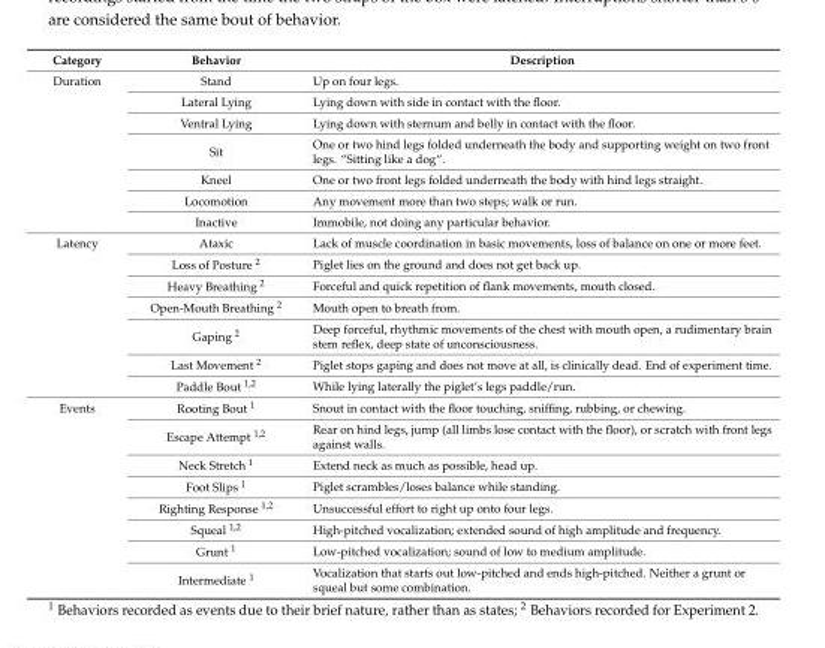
<table><thead><tr><td>Category</td><td>Behavior</td><td>Description</td></tr></thead><tbody><tr><td rowspan="7">Duration</td><td>Stand</td><td>Up on four legs.</td></tr><tr><td>Lateral Lying</td><td>Lying down with side in contact with the floor.</td></tr><tr><td>Ventral Lying</td><td>Lying down with sternum and belly in contact with the floor.</td></tr><tr><td>Sit</td><td>One or two hind legs folded underneath the body and supporting weight on two front legs. “Sitting like a dog“.</td></tr><tr><td>Kneel</td><td>One or two front legs folded underneath the body with hind legs straight.</td></tr><tr><td>Locomotion</td><td>Any movement more than two steps; walk or run.</td></tr><tr><td>Inactive</td><td>Immobile, not doing any particular behavior.</td></tr><tr><td rowspan="7">Latency</td><td>Ataxic</td><td>Lack of muscle coordination in basic movements, loss of balance on one or more feet.</td></tr><tr><td>Loss of Posture <sup>2</sup></td><td>Piglet lies on the ground and does not get back up.</td></tr><tr><td>Heavy Breathing <sup>2</sup></td><td>Forceful and quick repetition of flank movements, mouth closed.</td></tr><tr><td>Open-Mouth Breathing <sup>2</sup></td><td>Mouth open to breath from.</td></tr><tr><td>Gaping <sup>2</sup></td><td>Deep forceful, rhythmic movements of the chest with mouth open, a rudimentary brain stem reflex, deep state of unconsciousness.</td></tr><tr><td>Last Movement <sup>2</sup></td><td>Piglet stops gaping and does not move at all, is clinically dead. End of experiment time.</td></tr><tr><td>Paddle Bout <sup>1,2</sup></td><td>While lying laterally the piglet’s legs paddle/run.</td></tr><tr><td rowspan="8">Events</td><td>Rooting Bout <sup>1</sup></td><td>Snout in contact with the floor touching, sniffing, rubbing, or chewing.</td></tr><tr><td>Escape Attempt <sup>1,2</sup></td><td>Rear on hind legs, jump (all limbs lose contact with the floor), or scratch with front legs against walls.</td></tr><tr><td>Neck Stretch <sup>1</sup></td><td>Extend neck as much as possible, head up.</td></tr><tr><td>Foot Slips <sup>1</sup></td><td>Piglet scrambles/loses balance while standing.</td></tr><tr><td>Righting Response <sup>1,2</sup></td><td>Unsuccessful effort to right up onto four legs.</td></tr><tr><td>Squeal <sup>1,2</sup></td><td>High-pitched vocalization; extended sound of high amplitude and frequency.</td></tr><tr><td>Grunt <sup>1</sup></td><td>Low-pitched vocalization; sound of low to medium amplitude.</td></tr><tr><td>Intermediate <sup>1</sup></td><td>Vocalization that starts out low-pitched and ends high-pitched. Neither a grunt or squeal but some combination.</td></tr></tbody></table>